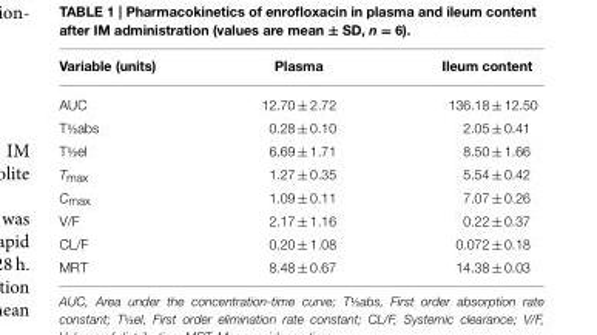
<table><thead><tr><td>Variable (units)</td><td>Plasma</td><td>Ileum content</td></tr></thead><tbody><tr><td>AUC</td><td>12.70 ± 2.72</td><td>136.18 ± 12.50</td></tr><tr><td>T½abs</td><td>0.28 ± 0.10</td><td>2.05 ± 0.41</td></tr><tr><td>T½el</td><td>6.69 ± 1.71</td><td>8.50 ± 1.66</td></tr><tr><td>T<sub>max</sub></td><td>1.27 ± 0.35</td><td>5.54 ± 0.42</td></tr><tr><td>C<sub>max</sub></td><td>1.09 ± 0.11</td><td>7.07 ± 0.26</td></tr><tr><td>V/F</td><td>2.17 ± 1.16</td><td>0.22 ± 0.37</td></tr><tr><td>CL/F</td><td>0.20 ± 1.08</td><td>0.072 ± 0.18</td></tr><tr><td>MRT</td><td>8.48 ± 0.67</td><td>14.38 ± 0.03</td></tr></tbody></table>